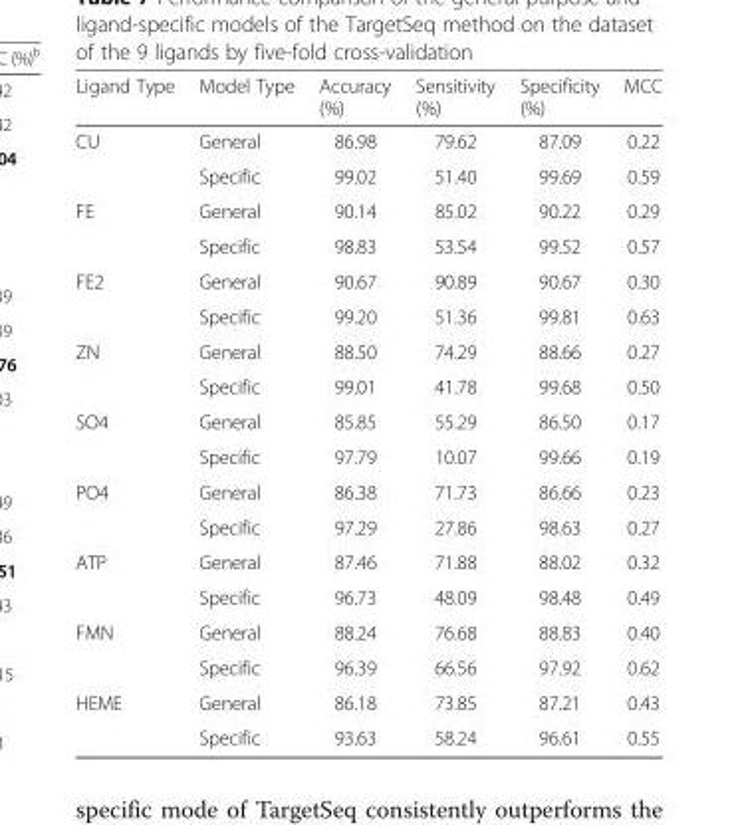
<table><thead><tr><td>Ligand Type</td><td>Model Type</td><td>Accuracy (%)</td><td>Sensitivity (%)</td><td>Specificity (%)</td><td>MCC</td></tr></thead><tbody><tr><td rowspan="2">CU</td><td>General</td><td>86.98</td><td>79.62</td><td>87.09</td><td>0.22</td></tr><tr><td>Specific</td><td>99.02</td><td>51.40</td><td>99.69</td><td>0.59</td></tr><tr><td rowspan="2">FE</td><td>General</td><td>90.14</td><td>85.02</td><td>90.22</td><td>0.29</td></tr><tr><td>Specific</td><td>98.83</td><td>53.54</td><td>99.52</td><td>0.57</td></tr><tr><td rowspan="2">FE2</td><td>General</td><td>90.67</td><td>90.89</td><td>90.67</td><td>0.30</td></tr><tr><td>Specific</td><td>99.20</td><td>51.36</td><td>99.81</td><td>0.63</td></tr><tr><td rowspan="2">ZN</td><td>General</td><td>88.50</td><td>74.29</td><td>88.66</td><td>0.27</td></tr><tr><td>Specific</td><td>99.01</td><td>41.78</td><td>99.68</td><td>0.50</td></tr><tr><td rowspan="2">SO4</td><td>General</td><td>85.85</td><td>55.29</td><td>86.50</td><td>0.17</td></tr><tr><td>Specific</td><td>97.79</td><td>10.07</td><td>99.66</td><td>0.19</td></tr><tr><td rowspan="2">PO4</td><td>General</td><td>86.38</td><td>71.73</td><td>86.66</td><td>0.23</td></tr><tr><td>Specific</td><td>97.29</td><td>27.86</td><td>98.63</td><td>0.27</td></tr><tr><td rowspan="2">ATP</td><td>General</td><td>87.46</td><td>71.88</td><td>88.02</td><td>0.32</td></tr><tr><td>Specific</td><td>96.73</td><td>48.09</td><td>98.48</td><td>0.49</td></tr><tr><td rowspan="2">FMN</td><td>General</td><td>88.24</td><td>76.68</td><td>88.83</td><td>0.40</td></tr><tr><td>Specific</td><td>96.39</td><td>66.56</td><td>97.92</td><td>0.62</td></tr><tr><td rowspan="2">HEME</td><td>General</td><td>86.18</td><td>73.85</td><td>87.21</td><td>0.43</td></tr><tr><td>Specific</td><td>93.63</td><td>58.24</td><td>96.61</td><td>0.55</td></tr></tbody></table>